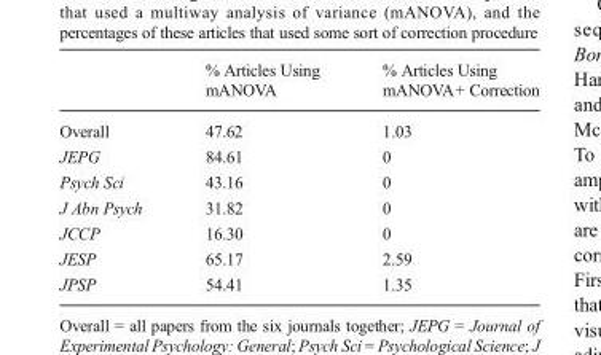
<table><thead><tr><td></td><td>% Articles Using mANOVA</td><td>% Articles Using mANOVA+ Correction</td></tr></thead><tbody><tr><td>Overall</td><td>47.62</td><td>1.03</td></tr><tr><td>JEPG</td><td>84.61</td><td>0</td></tr><tr><td>Psych Sci</td><td>43.16</td><td>0</td></tr><tr><td>J Abn Psych</td><td>31.82</td><td>0</td></tr><tr><td>JCCP</td><td>16.30</td><td>0</td></tr><tr><td>JESP</td><td>65.17</td><td>2.59</td></tr><tr><td>JPSP</td><td>54.41</td><td>1.35</td></tr></tbody></table>